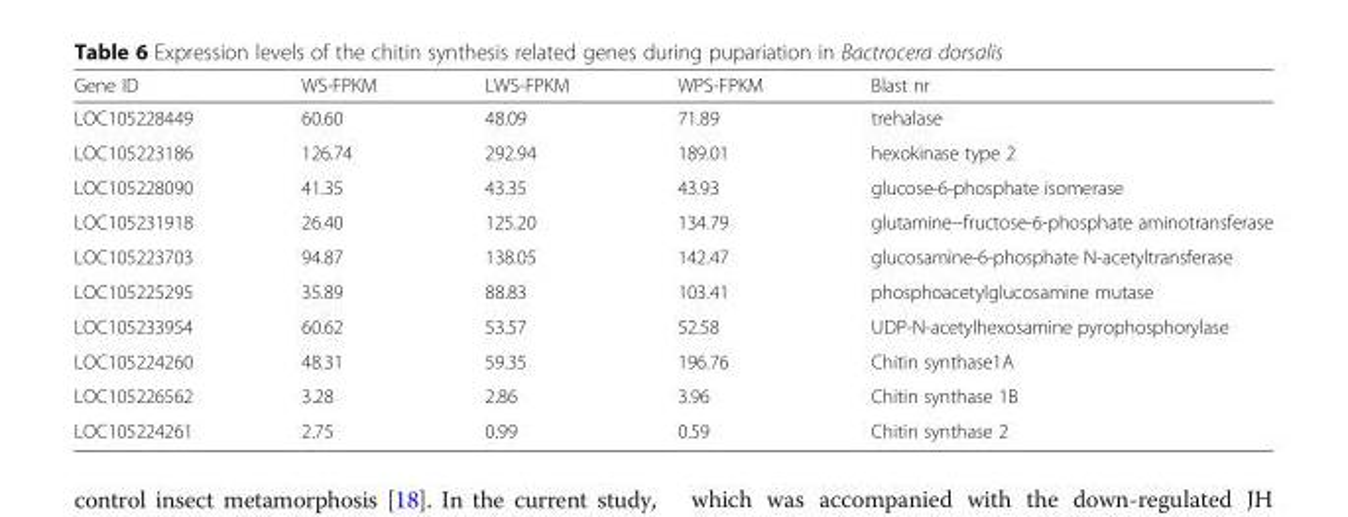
<table><thead><tr><td>Gene ID</td><td>WS-FPKM</td><td>LWS-FPKM</td><td>WPS-FPKM</td><td>Blast nr</td></tr></thead><tbody><tr><td>LOC105228449</td><td>60.60</td><td>48.09</td><td>71.89</td><td>trehalase</td></tr><tr><td>LOC105223186</td><td>126.74</td><td>292.94</td><td>189.01</td><td>hexokinase type 2</td></tr><tr><td>LOC105228090</td><td>41.35</td><td>43.35</td><td>43.93</td><td>glucose-6-phosphate isomerase</td></tr><tr><td>LOC105231918</td><td>26.40</td><td>125.20</td><td>134.79</td><td>glutamine--fructose-6-phosphate aminotransferase</td></tr><tr><td>LOC105223703</td><td>94.87</td><td>138.05</td><td>142.47</td><td>glucosamine-6-phosphate N-acetyltransferase</td></tr><tr><td>LOC105225295</td><td>35.89</td><td>88.83</td><td>103.41</td><td>phosphoacetylglucosamine mutase</td></tr><tr><td>LOC105233954</td><td>60.62</td><td>53.57</td><td>52.58</td><td>UDP-N-acetylhexosamine pyrophosphorylase</td></tr><tr><td>LOC105224260</td><td>48.31</td><td>59.35</td><td>196.76</td><td>Chitin synthase1A</td></tr><tr><td>LOC105226562</td><td>3.28</td><td>2.86</td><td>3.96</td><td>Chitin synthase 1B</td></tr><tr><td>LOC105224261</td><td>2.75</td><td>0.99</td><td>0.59</td><td>Chitin synthase 2</td></tr></tbody></table>